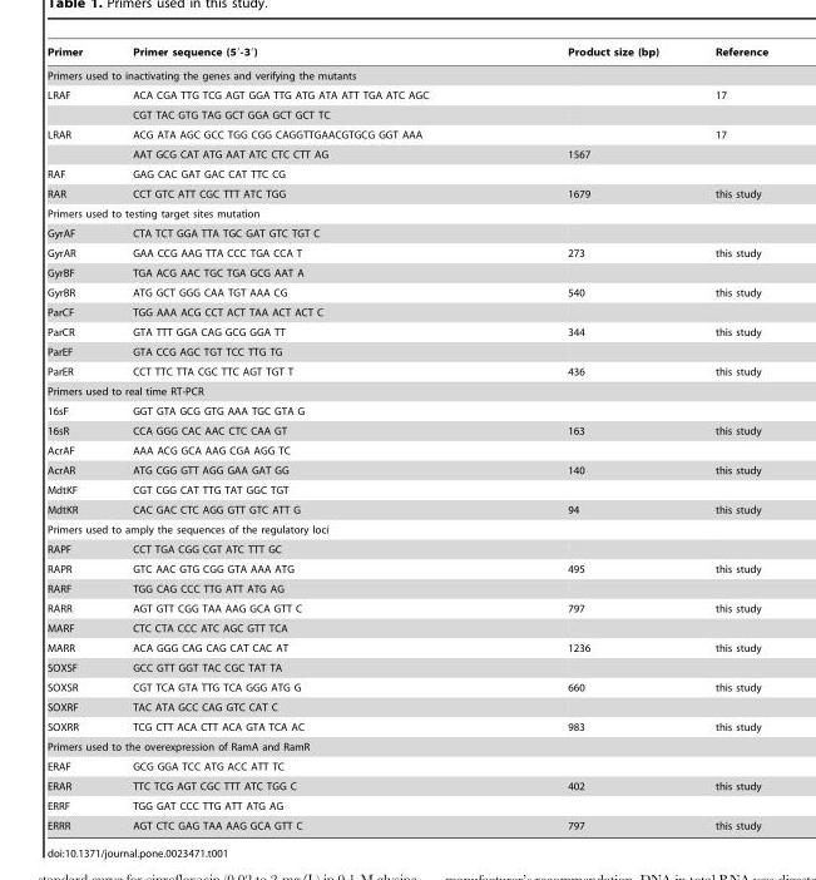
<table><thead><tr><td>Primer</td><td>Primer sequence (5′-3′)</td><td>Product size (bp)</td><td>Reference</td></tr></thead><tbody><tr><td colspan="4">Primers used to inactivating the genes and verifying the mutants</td></tr><tr><td rowspan="2">LRAF</td><td>ACA CGA TTG TCG AGT GGA TTG ATG ATA ATT TGA ATC AGC</td><td></td><td>17</td></tr><tr><td>CGT TAC GTG TAG GCT GGA GCT GCT TC</td><td></td><td></td></tr><tr><td rowspan="2">LRAR</td><td>ACG ATA AGC GCC TGG CGG CAGGTTGAACGTGCG GGT AAA</td><td></td><td>17</td></tr><tr><td>AAT GCG CAT ATG AAT ATC CTC CTT AG</td><td>1567</td><td></td></tr><tr><td>RAF</td><td>GAG CAC GAT GAC CAT TTC CG</td><td></td><td></td></tr><tr><td>RAR</td><td>CCT GTC ATT CGC TTT ATC TGG</td><td>1679</td><td>this study</td></tr><tr><td colspan="4">Primers used to testing target sites mutation</td></tr><tr><td>GyrAF</td><td>CTA TCT GGA TTA TGC GAT GTC TGT C</td><td></td><td></td></tr><tr><td>GyrAR</td><td>GAA CCG AAG TTA CCC TGA CCA T</td><td>273</td><td>this study</td></tr><tr><td>GyrBF</td><td>TGA ACG AAC TGC TGA GCG AAT A</td><td></td><td></td></tr><tr><td>GyrBR</td><td>ATG GCT GGG CAA TGT AAA CG</td><td>540</td><td>this study</td></tr><tr><td>ParCF</td><td>TGG AAA ACG CCT ACT TAA ACT ACT C</td><td></td><td></td></tr><tr><td>ParCR</td><td>GTA TTT GGA CAG GCG GGA TT</td><td>344</td><td>this study</td></tr><tr><td>ParEF</td><td>GTA CCG AGC TGT TCC TTG TG</td><td></td><td></td></tr><tr><td>ParER</td><td>CCT TTC TTA CGC TTC AGT TGT T</td><td>436</td><td>this study</td></tr><tr><td colspan="4">Primers used to real time RT-PCR</td></tr><tr><td>16sF</td><td>GGT GTA GCG GTG AAA TGC GTA G</td><td></td><td></td></tr><tr><td>16sR</td><td>CCA GGG CAC AAC CTC CAA GT</td><td>163</td><td>this study</td></tr><tr><td>AcrAF</td><td>AAA ACG GCA AAG CGA AGG TC</td><td></td><td></td></tr><tr><td>AcrAR</td><td>ATG CGG GTT AGG GAA GAT GG</td><td>140</td><td>this study</td></tr><tr><td>MdtKF</td><td>CGT CGG CAT TTG TAT GGC TGT</td><td></td><td></td></tr><tr><td>MdtKR</td><td>CAC GAC CTC AGG GTT GTC ATT G</td><td>94</td><td>this study</td></tr><tr><td colspan="4">Primers used to amply the sequences of the regulatory loci</td></tr><tr><td>RAPF</td><td>CCT TGA CGG CGT ATC TTT GC</td><td></td><td></td></tr><tr><td>RAPR</td><td>GTC AAC GTG CGG GTA AAA ATG</td><td>495</td><td>this study</td></tr><tr><td>RARF</td><td>TGG CAG CCC TTG ATT ATG AG</td><td></td><td></td></tr><tr><td>RARR</td><td>AGT GTT CGG TAA AAG GCA GTT C</td><td>797</td><td>this study</td></tr><tr><td>MARF</td><td>CTC CTA CCC ATC AGC GTT TCA</td><td></td><td></td></tr><tr><td>MARR</td><td>ACA GGG CAG CAG CAT CAC AT</td><td>1236</td><td>this study</td></tr><tr><td>SOXSF</td><td>GCC GTT GGT TAC CGC TAT TA</td><td></td><td></td></tr><tr><td>SOXSR</td><td>CGT TCA GTA TTG TCA GGG ATG G</td><td>660</td><td>this study</td></tr><tr><td>SOXRF</td><td>TAC ATA GCC CAG GTC CAT C</td><td></td><td></td></tr><tr><td>SOXRR</td><td>TCG CTT ACA CTT ACA GTA TCA AC</td><td>983</td><td>this study</td></tr><tr><td colspan="4">Primers used to the overexpression of RamA and RamR</td></tr><tr><td>ERAF</td><td>GCG GGA TCC ATG ACC ATT TC</td><td></td><td></td></tr><tr><td>ERAR</td><td>TTC TCG AGT CGC TTT ATC TGG C</td><td>402</td><td>this study</td></tr><tr><td>ERRF</td><td>TGG GAT CCC TTG ATT ATG AG</td><td></td><td></td></tr><tr><td>ERRR</td><td>AGT CTC GAG TAA AAG GCA GTT C</td><td>797</td><td>this study</td></tr></tbody></table>